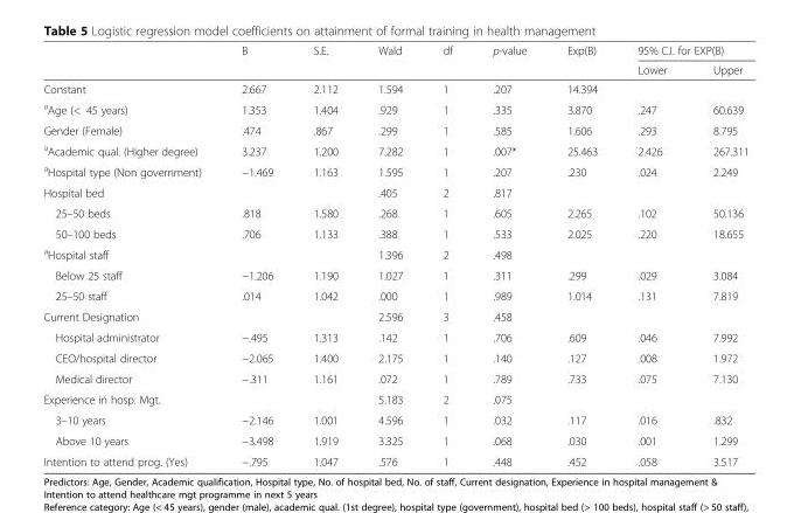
<table><thead><tr><td rowspan="2"></td><td rowspan="2">B</td><td rowspan="2">S.E.</td><td rowspan="2">Wald</td><td rowspan="2">df</td><td rowspan="2">p-value</td><td rowspan="2">Exp(B)</td><td colspan="2">95% C.I. for EXP(B)</td></tr><tr><td>Lower</td><td>Upper</td></tr></thead><tbody><tr><td>Constant</td><td>2.667</td><td>2.112</td><td>1.594</td><td>1</td><td>.207</td><td>14.394</td><td></td><td></td></tr><tr><td><sup>a</sup>Age (&lt; 45 years)</td><td>1.353</td><td>1.404</td><td>.929</td><td>1</td><td>.335</td><td>3.870</td><td>.247</td><td>60.639</td></tr><tr><td>Gender (Female)</td><td>.474</td><td>.867</td><td>.299</td><td>1</td><td>.585</td><td>1.606</td><td>.293</td><td>8.795</td></tr><tr><td><sup>a</sup>Academic qual. (Higher degree)</td><td>3.237</td><td>1.200</td><td>7.282</td><td>1</td><td>.007*</td><td>25.463</td><td>2.426</td><td>267.311</td></tr><tr><td><sup>a</sup>Hospital type (Non government)</td><td>−1.469</td><td>1.163</td><td>1.595</td><td>1</td><td>.207</td><td>.230</td><td>.024</td><td>2.249</td></tr><tr><td>Hospital bed</td><td></td><td></td><td>.405</td><td>2</td><td>.817</td><td></td><td></td><td></td></tr><tr><td>25–50 beds</td><td>.818</td><td>1.580</td><td>.268</td><td>1</td><td>.605</td><td>2.265</td><td>.102</td><td>50.136</td></tr><tr><td>50–100 beds</td><td>.706</td><td>1.133</td><td>.388</td><td>1</td><td>.533</td><td>2.025</td><td>.220</td><td>18.655</td></tr><tr><td><sup>a</sup>Hospital staff</td><td></td><td></td><td>1.396</td><td>2</td><td>.498</td><td></td><td></td><td></td></tr><tr><td>Below 25 staff</td><td>−1.206</td><td>1.190</td><td>1.027</td><td>1</td><td>.311</td><td>.299</td><td>.029</td><td>3.084</td></tr><tr><td>25–50 staff</td><td>.014</td><td>1.042</td><td>.000</td><td>1</td><td>.989</td><td>1.014</td><td>.131</td><td>7.819</td></tr><tr><td>Current Designation</td><td></td><td></td><td>2.596</td><td>3</td><td>.458</td><td></td><td></td><td></td></tr><tr><td>Hospital administrator</td><td>−.495</td><td>1.313</td><td>.142</td><td>1</td><td>.706</td><td>.609</td><td>.046</td><td>7.992</td></tr><tr><td>CEO/hospital director</td><td>−2.065</td><td>1.400</td><td>2.175</td><td>1</td><td>.140</td><td>.127</td><td>.008</td><td>1.972</td></tr><tr><td>Medical director</td><td>−.311</td><td>1.161</td><td>.072</td><td>1</td><td>.789</td><td>.733</td><td>.075</td><td>7.130</td></tr><tr><td>Experience in hosp. Mgt.</td><td></td><td></td><td>5.183</td><td>2</td><td>.075</td><td></td><td></td><td></td></tr><tr><td>3–10 years</td><td>−2.146</td><td>1.001</td><td>4.596</td><td>1</td><td>.032</td><td>.117</td><td>.016</td><td>.832</td></tr><tr><td>Above 10 years</td><td>−3.498</td><td>1.919</td><td>3.325</td><td>1</td><td>.068</td><td>.030</td><td>.001</td><td>1.299</td></tr><tr><td>Intention to attend prog. (Yes)</td><td>−.795</td><td>1.047</td><td>.576</td><td>1</td><td>.448</td><td>.452</td><td>.058</td><td>3.517</td></tr></tbody></table>